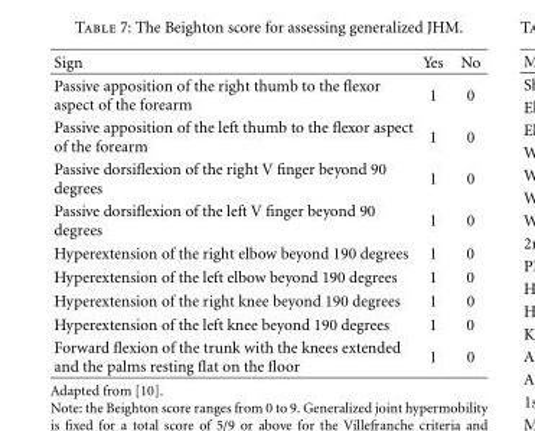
<table><thead><tr><td>Sign</td><td>Yes</td><td>No</td></tr></thead><tbody><tr><td>Passive apposition of the right thumb to the flexor aspect of the forearm</td><td>1</td><td>0</td></tr><tr><td>Passive apposition of the left thumb to the flexor aspect of the forearm</td><td>1</td><td>0</td></tr><tr><td>Passive dorsiflexion of the right V finger beyond 90 degrees</td><td>1</td><td>0</td></tr><tr><td>Passive dorsiflexion of the left V finger beyond 90 degrees</td><td>1</td><td>0</td></tr><tr><td>Hyperextension of the right elbow beyond 190 degrees</td><td>1</td><td>0</td></tr><tr><td>Hyperextension of the left elbow beyond 190 degrees</td><td>1</td><td>0</td></tr><tr><td>Hyperextension of the right knee beyond 190 degrees</td><td>1</td><td>0</td></tr><tr><td>Hyperextension of the left knee beyond 190 degrees</td><td>1</td><td>0</td></tr><tr><td>Forward flexion of the trunk with the knees extended and the palms resting flat on the floor</td><td>1</td><td>0</td></tr></tbody></table>